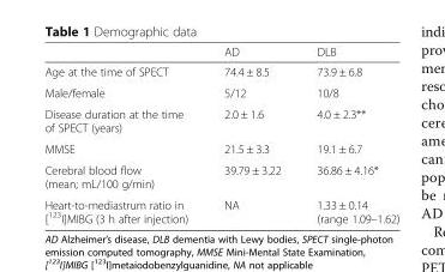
<table><thead><tr><td></td><td>AD</td><td>DLB</td></tr></thead><tbody><tr><td>Age at the time of SPECT</td><td>74.4 ± 8.5</td><td>73.9 ± 6.8</td></tr><tr><td>Male/female</td><td>5/12</td><td>10/8</td></tr><tr><td>Disease duration at the time of SPECT (years)</td><td>2.0 ± 1.6</td><td>4.0 ± 2.3**</td></tr><tr><td>MMSE</td><td>21.5 ± 3.3</td><td>19.1 ± 6.7</td></tr><tr><td>Cerebral blood flow (mean; mL/100 g/min)</td><td>39.79 ± 3.22</td><td>36.86 ± 4.16*</td></tr><tr><td>Heart-to-mediastrum ratio in [<sup>123</sup>I]MIBG (3 h after injection)</td><td>NA</td><td>1.33 ± 0.14 (range 1.09–1.62)</td></tr></tbody></table>